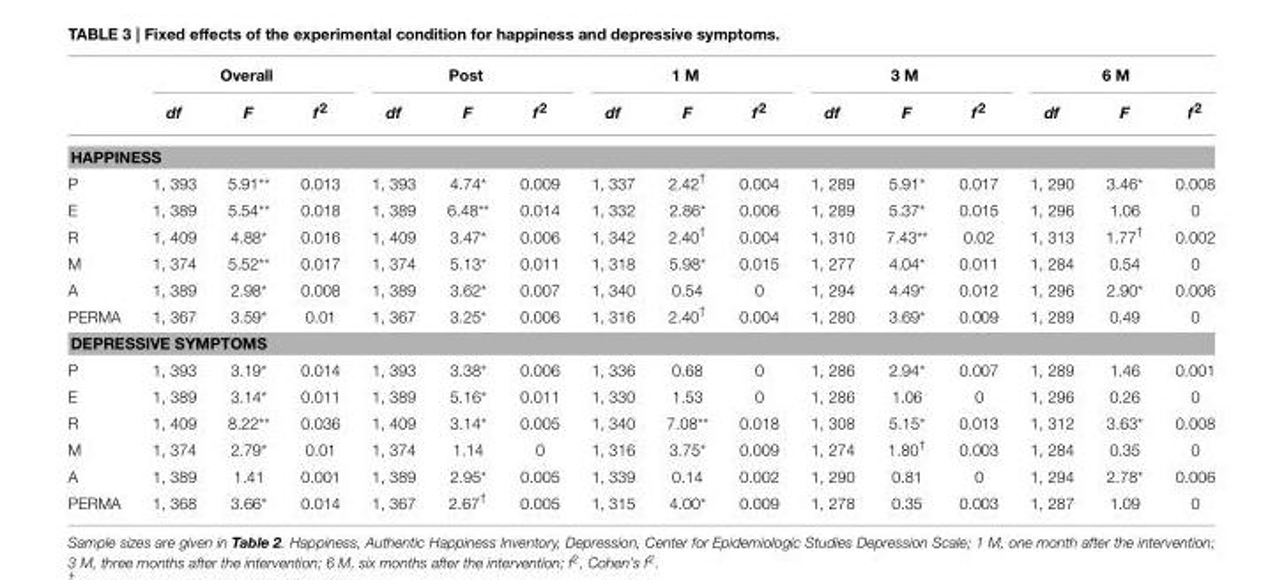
<table><thead><tr><td rowspan="2"></td><td colspan="3">Overall</td><td colspan="3">Post</td><td colspan="3">1 M</td><td colspan="3">3 M</td><td colspan="3">6 M</td></tr><tr><td>df</td><td>F</td><td>f<sup>2</sup></td><td>df</td><td>F</td><td>f<sup>2</sup></td><td>df</td><td>F</td><td>f<sup>2</sup></td><td>df</td><td>F</td><td>f<sup>2</sup></td><td>df</td><td>F</td><td>f<sup>2</sup></td></tr></thead><tbody><tr><td colspan="16">HAPPINESS</td></tr><tr><td>P</td><td>1, 393</td><td>5.91**</td><td>0.013</td><td>1, 393</td><td>4.74*</td><td>0.009</td><td>1, 337</td><td>2.42<sup>†</sup></td><td>0.004</td><td>1, 289</td><td>5.91*</td><td>0.017</td><td>1, 290</td><td>3.46*</td><td>0.008</td></tr><tr><td>E</td><td>1, 389</td><td>5.54**</td><td>0.018</td><td>1, 389</td><td>6.48**</td><td>0.014</td><td>1, 332</td><td>2.86*</td><td>0.006</td><td>1, 289</td><td>5.37*</td><td>0.015</td><td>1, 296</td><td>1.06</td><td>0</td></tr><tr><td>R</td><td>1, 409</td><td>4.88*</td><td>0.016</td><td>1, 409</td><td>3.47*</td><td>0.006</td><td>1, 342</td><td>2.40†</td><td>0.004</td><td>1, 310</td><td>7.43**</td><td>0.02</td><td>1, 313</td><td>1.77<sup>†</sup></td><td>0.002</td></tr><tr><td>M</td><td>1, 374</td><td>5.52**</td><td>0.017</td><td>1, 374</td><td>5.13*</td><td>0.011</td><td>1, 318</td><td>5.98*</td><td>0.015</td><td>1, 277</td><td>4.04*</td><td>0.011</td><td>1, 284</td><td>0.54</td><td>0</td></tr><tr><td>A</td><td>1, 389</td><td>2.98*</td><td>0.008</td><td>1, 389</td><td>3.62*</td><td>0.007</td><td>1, 340</td><td>0.54</td><td>0</td><td>1, 294</td><td>4.49*</td><td>0.012</td><td>1, 296</td><td>2.90*</td><td>0.006</td></tr><tr><td>PERMA</td><td>1, 367</td><td>3.59*</td><td>0.01</td><td>1, 367</td><td>3.25*</td><td>0.006</td><td>1, 316</td><td>2.40†</td><td>0.004</td><td>1, 280</td><td>3.69*</td><td>0.009</td><td>1, 289</td><td>0.49</td><td>0</td></tr><tr><td colspan="16">DEPRESSIVE SYMPTOMS</td></tr><tr><td>P</td><td>1, 393</td><td>3.19*</td><td>0.014</td><td>1, 393</td><td>3.38*</td><td>0.006</td><td>1, 336</td><td>0.68</td><td>0</td><td>1, 286</td><td>2.94*</td><td>0.007</td><td>1, 289</td><td>1.46</td><td>0.001</td></tr><tr><td>E</td><td>1, 389</td><td>3.14*</td><td>0.011</td><td>1, 389</td><td>5.16*</td><td>0.011</td><td>1, 330</td><td>1.53</td><td>0</td><td>1, 286</td><td>1.06</td><td>0</td><td>1, 296</td><td>0.26</td><td>0</td></tr><tr><td>R</td><td>1, 409</td><td>8.22**</td><td>0.036</td><td>1, 409</td><td>3.14*</td><td>0.005</td><td>1, 340</td><td>7.08**</td><td>0.018</td><td>1, 308</td><td>5.15*</td><td>0.013</td><td>1, 312</td><td>3.63*</td><td>0.008</td></tr><tr><td>M</td><td>1, 374</td><td>2.79*</td><td>0.01</td><td>1, 374</td><td>1.14</td><td>0</td><td>1, 316</td><td>3.75*</td><td>0.009</td><td>1, 274</td><td>1.80<sup>†</sup></td><td>0.003</td><td>1, 284</td><td>0.35</td><td>0</td></tr><tr><td>A</td><td>1, 389</td><td>1.41</td><td>0.001</td><td>1, 389</td><td>2.95*</td><td>0.005</td><td>1, 339</td><td>0.14</td><td>0.002</td><td>1, 290</td><td>0.81</td><td>0</td><td>1, 294</td><td>2.78*</td><td>0.006</td></tr><tr><td>PERMA</td><td>1, 368</td><td>3.66*</td><td>0.014</td><td>1, 367</td><td>2.67†</td><td>0.005</td><td>1, 315</td><td>4.00*</td><td>0.009</td><td>1, 278</td><td>0.35</td><td>0.003</td><td>1, 287</td><td>1.09</td><td>0</td></tr></tbody></table>